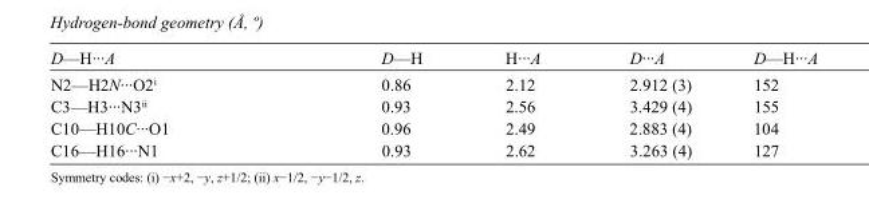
<table><tbody><tr><td>D—H···A</td><td>D—H</td><td>H···A</td><td>D···A</td><td>D—H···A</td></tr><tr><td>N2—H2N···O2<sup>i</sup></td><td>0.86</td><td>2.12</td><td>2.912 (3)</td><td>152</td></tr><tr><td>C3—H3···N3<sup>ii</sup></td><td>0.93</td><td>2.56</td><td>3.429 (4)</td><td>155</td></tr><tr><td>C10—H10C···O1</td><td>0.96</td><td>2.49</td><td>2.883 (4)</td><td>104</td></tr><tr><td>C16—H16···N1</td><td>0.93</td><td>2.62</td><td>3.263 (4)</td><td>127</td></tr></tbody></table>